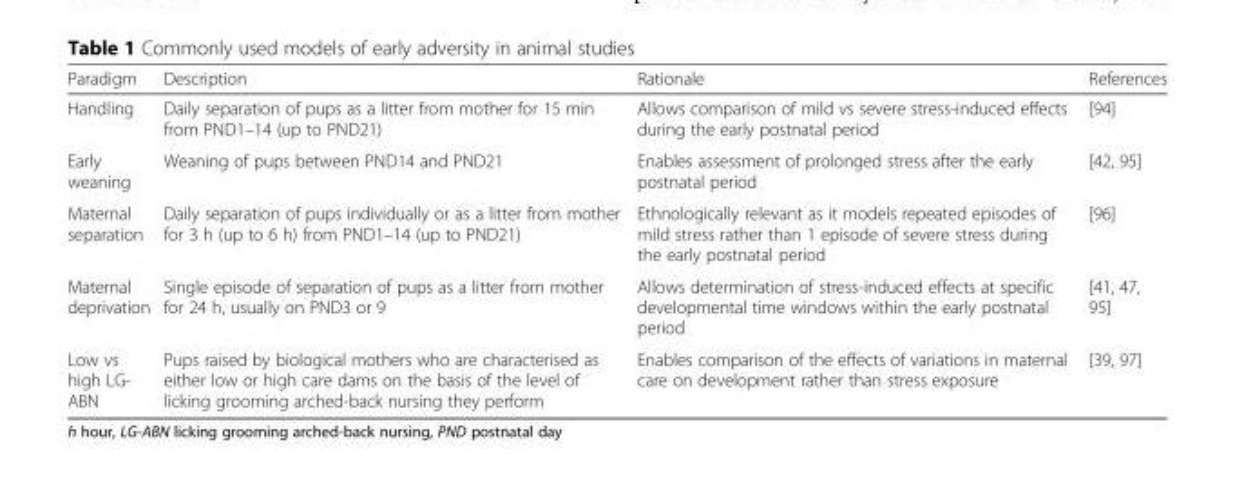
<table><thead><tr><td>Paradigm</td><td>Description</td><td>Rationale</td><td>References</td></tr></thead><tbody><tr><td>Handling</td><td>Daily separation of pups as a litter from mother for 15 min from PND1–14 (up to PND21)</td><td>Allows comparison of mild vs severe stress-induced effects during the early postnatal period</td><td>[94]</td></tr><tr><td>Early weaning</td><td>Weaning of pups between PND14 and PND21</td><td>Enables assessment of prolonged stress after the early postnatal period</td><td>[42, 95]</td></tr><tr><td>Maternal separation</td><td>Daily separation of pups individually or as a litter from mother for 3 h (up to 6 h) from PND1–14 (up to PND21)</td><td>Ethnologically relevant as it models repeated episodes of mild stress rather than 1 episode of severe stress during the early postnatal period</td><td>[96]</td></tr><tr><td>Maternal deprivation</td><td>Single episode of separation of pups as a litter from mother for 24 h, usually on PND3 or 9</td><td>Allows determination of stress-induced effects at specific developmental time windows within the early postnatal period</td><td>[41, 47, 95]</td></tr><tr><td>Low vs high LG- ABN</td><td>Pups raised by biological mothers who are characterised as either low or high care dams on the basis of the level of licking grooming arched-back nursing they perform</td><td>Enables comparison of the effects of variations in maternal care on development rather than stress exposure</td><td>[39, 97]</td></tr></tbody></table>